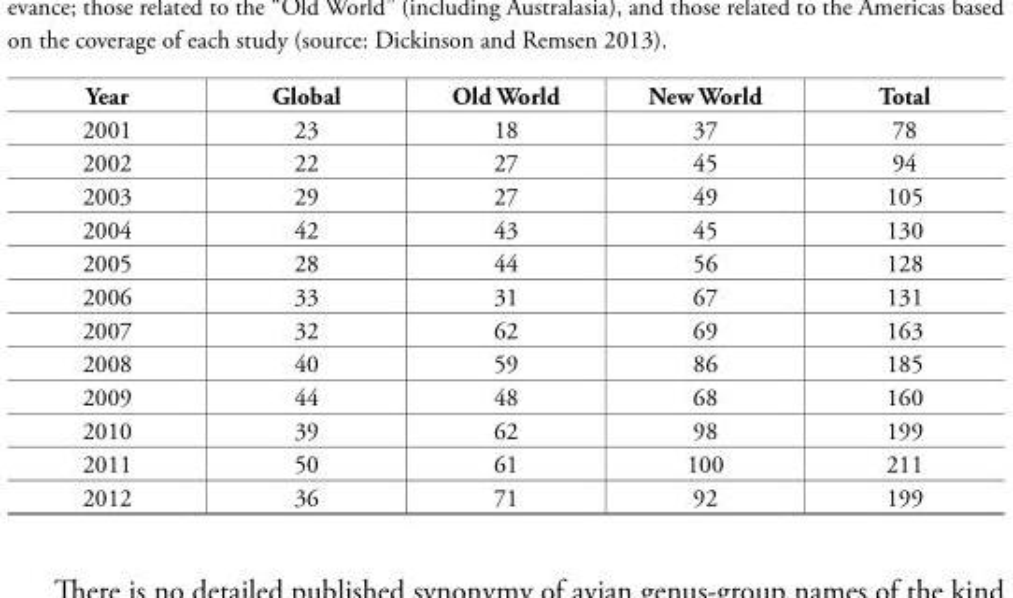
<table><thead><tr><td>Year</td><td>Global</td><td>Old World</td><td>New World</td><td>Total</td></tr></thead><tbody><tr><td>2001</td><td>23</td><td>18</td><td>37</td><td>78</td></tr><tr><td>2002</td><td>22</td><td>27</td><td>45</td><td>94</td></tr><tr><td>2003</td><td>29</td><td>27</td><td>49</td><td>105</td></tr><tr><td>2004</td><td>42</td><td>43</td><td>45</td><td>130</td></tr><tr><td>2005</td><td>28</td><td>44</td><td>56</td><td>128</td></tr><tr><td>2006</td><td>33</td><td>31</td><td>67</td><td>131</td></tr><tr><td>2007</td><td>32</td><td>62</td><td>69</td><td>163</td></tr><tr><td>2008</td><td>40</td><td>59</td><td>86</td><td>185</td></tr><tr><td>2009</td><td>44</td><td>48</td><td>68</td><td>160</td></tr><tr><td>2010</td><td>39</td><td>62</td><td>98</td><td>199</td></tr><tr><td>2011</td><td>50</td><td>61</td><td>100</td><td>211</td></tr><tr><td>2012</td><td>36</td><td>71</td><td>92</td><td>199</td></tr></tbody></table>